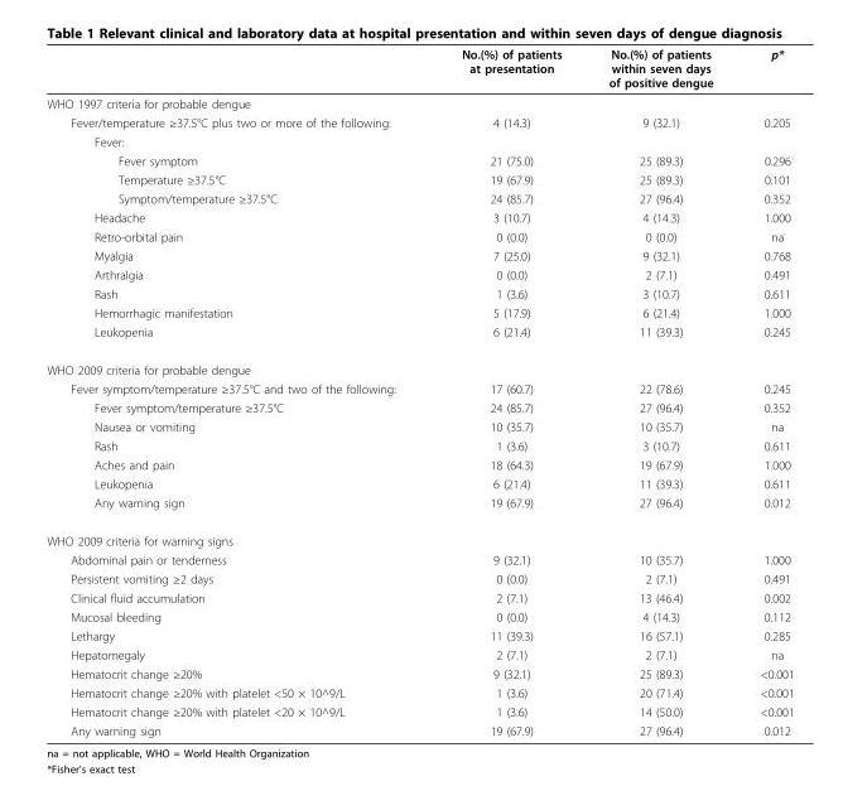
<table><thead><tr><td></td><td>No.(%) of patients at presentation</td><td>No.(%) of patients within seven days of positive dengue</td><td>p*</td></tr></thead><tbody><tr><td colspan="4">WHO 1997 criteria for probable dengue</td></tr><tr><td>Fever/temperature ≥37.5°C plus two or more of the following:</td><td>4 (14.3)</td><td>9 (32.1)</td><td>0.205</td></tr><tr><td colspan="4">Fever:</td></tr><tr><td>Fever symptom</td><td>21 (75.0)</td><td>25 (89.3)</td><td>0.296</td></tr><tr><td>Temperature ≥37.5°C</td><td>19 (67.9)</td><td>25 (89.3)</td><td>0.101</td></tr><tr><td>Symptom/temperature ≥37.5°C</td><td>24 (85.7)</td><td>27 (96.4)</td><td>0.352</td></tr><tr><td>Headache</td><td>3 (10.7)</td><td>4 (14.3)</td><td>1.000</td></tr><tr><td>Retro-orbital pain</td><td>0 (0.0)</td><td>0 (0.0)</td><td>na</td></tr><tr><td>Myalgia</td><td>7 (25.0)</td><td>9 (32.1)</td><td>0.768</td></tr><tr><td>Arthralgia</td><td>0 (0.0)</td><td>2 (7.1)</td><td>0.491</td></tr><tr><td>Rash</td><td>1 (3.6)</td><td>3 (10.7)</td><td>0.611</td></tr><tr><td>Hemorrhagic manifestation</td><td>5 (17.9)</td><td>6 (21.4)</td><td>1.000</td></tr><tr><td>Leukopenia</td><td>6 (21.4)</td><td>11 (39.3)</td><td>0.245</td></tr><tr><td colspan="4">WHO 2009 criteria for probable dengue</td></tr><tr><td>Fever symptom/temperature ≥37.5°C and two of the following:</td><td>17 (60.7)</td><td>22 (78.6)</td><td>0.245</td></tr><tr><td>Fever symptom/temperature ≥37.5°C</td><td>24 (85.7)</td><td>27 (96.4)</td><td>0.352</td></tr><tr><td>Nausea or vomiting</td><td>10 (35.7)</td><td>10 (35.7)</td><td>na</td></tr><tr><td>Rash</td><td>1 (3.6)</td><td>3 (10.7)</td><td>0.611</td></tr><tr><td>Aches and pain</td><td>18 (64.3)</td><td>19 (67.9)</td><td>1.000</td></tr><tr><td>Leukopenia</td><td>6 (21.4)</td><td>11 (39.3)</td><td>0.611</td></tr><tr><td>Any warning sign</td><td>19 (67.9)</td><td>27 (96.4)</td><td>0.012</td></tr><tr><td colspan="4">WHO 2009 criteria for warning signs</td></tr><tr><td>Abdominal pain or tenderness</td><td>9 (32.1)</td><td>10 (35.7)</td><td>1.000</td></tr><tr><td>Persistent vomiting ≥2 days</td><td>0 (0.0)</td><td>2 (7.1)</td><td>0.491</td></tr><tr><td>Clinical fluid accumulation</td><td>2 (7.1)</td><td>13 (46.4)</td><td>0.002</td></tr><tr><td>Mucosal bleeding</td><td>0 (0.0)</td><td>4 (14.3)</td><td>0.112</td></tr><tr><td>Lethargy</td><td>11 (39.3)</td><td>16 (57.1)</td><td>0.285</td></tr><tr><td>Hepatomegaly</td><td>2 (7.1)</td><td>2 (7.1)</td><td>na</td></tr><tr><td>Hematocrit change ≥20%</td><td>9 (32.1)</td><td>25 (89.3)</td><td>&lt;0.001</td></tr><tr><td>Hematocrit change ≥20% with platelet &lt;50 × 10^9/L</td><td>1 (3.6)</td><td>20 (71.4)</td><td>&lt;0.001</td></tr><tr><td>Hematocrit change ≥20% with platelet &lt;20 × 10^9/L</td><td>1 (3.6)</td><td>14 (50.0)</td><td>&lt;0.001</td></tr><tr><td>Any warning sign</td><td>19 (67.9)</td><td>27 (96.4)</td><td>0.012</td></tr></tbody></table>